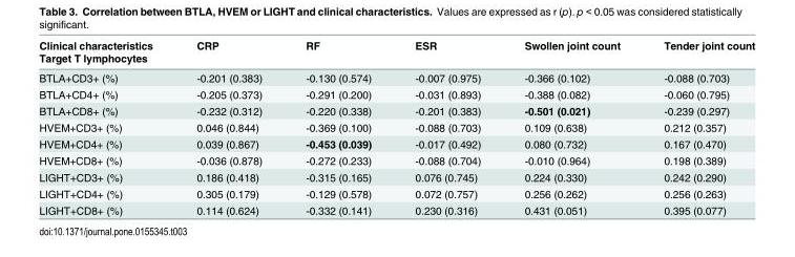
<table><thead><tr><td rowspan="2">Clinical characteristics Target T lymphocytes</td><td rowspan="2">CRP</td><td rowspan="2">RF</td><td rowspan="2">ESR</td><td rowspan="2">Swollen joint count</td><td rowspan="2">Tender joint count</td></tr><tr></tr></thead><tbody><tr><td>BTLA+CD3+ (%)</td><td>-0.201 (0.383)</td><td>-0.130 (0.574)</td><td>-0.007 (0.975)</td><td>-0.366 (0.102)</td><td>-0.088 (0.703)</td></tr><tr><td>BTLA+CD4+ (%)</td><td>-0.205 (0.373)</td><td>-0.291 (0.200)</td><td>-0.031 (0.893)</td><td>-0.388 (0.082)</td><td>-0.060 (0.795)</td></tr><tr><td>BTLA+CD8+ (%)</td><td>-0.232 (0.312)</td><td>-0.220 (0.338)</td><td>-0.201 (0.383)</td><td>-0.501 (0.021)</td><td>-0.239 (0.297)</td></tr><tr><td>HVEM+CD3+ (%)</td><td>0.046 (0.844)</td><td>-0.369 (0.100)</td><td>-0.088 (0.703)</td><td>0.109 (0.638)</td><td>0.212 (0.357)</td></tr><tr><td>HVEM+CD4+ (%)</td><td>0.039 (0.867)</td><td>-0.453 (0.039)</td><td>-0.017 (0.492)</td><td>0.080 (0.732)</td><td>0.167 (0.470)</td></tr><tr><td>HVEM+CD8+ (%)</td><td>-0.036 (0.878)</td><td>-0.272 (0.233)</td><td>-0.088 (0.704)</td><td>-0.010 (0.964)</td><td>0.198 (0.389)</td></tr><tr><td>LIGHT+CD3+ (%)</td><td>0.186 (0.418)</td><td>-0.315 (0.165)</td><td>0.076 (0.745)</td><td>0.224 (0.330)</td><td>0.242 (0.290)</td></tr><tr><td>LIGHT+CD4+ (%)</td><td>0.305 (0.179)</td><td>-0.129 (0.578)</td><td>0.072 (0.757)</td><td>0.256 (0.262)</td><td>0.256 (0.263)</td></tr><tr><td>LIGHT+CD8+ (%)</td><td>0.114 (0.624)</td><td>-0.332 (0.141)</td><td>0.230 (0.316)</td><td>0.431 (0.051)</td><td>0.395 (0.077)</td></tr></tbody></table>